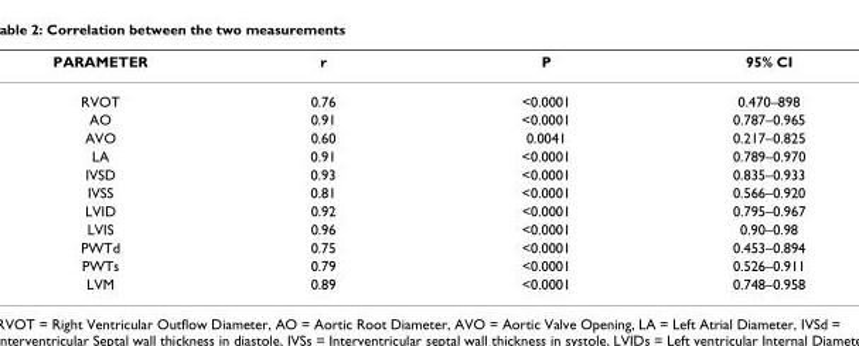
<table><thead><tr><td>PARAMETER</td><td>r</td><td>P</td><td>95% CI</td></tr></thead><tbody><tr><td>RVOT</td><td>0.76</td><td>&lt;0.0001</td><td>0.470–898</td></tr><tr><td>AO</td><td>0.91</td><td>&lt;0.0001</td><td>0.787–0.965</td></tr><tr><td>AVO</td><td>0.60</td><td>0.0041</td><td>0.217–0.825</td></tr><tr><td>LA</td><td>0.91</td><td>&lt;0.0001</td><td>0.789–0.970</td></tr><tr><td>IVSD</td><td>0.93</td><td>&lt;0.0001</td><td>0.835–0.933</td></tr><tr><td>IVSS</td><td>0.81</td><td>&lt;0.0001</td><td>0.566–0.920</td></tr><tr><td>LVID</td><td>0.92</td><td>&lt;0.0001</td><td>0.795–0.967</td></tr><tr><td>LVIS</td><td>0.96</td><td>&lt;0.0001</td><td>0.90–0.98</td></tr><tr><td>PWTd</td><td>0.75</td><td>&lt;0.0001</td><td>0.453–0.894</td></tr><tr><td>PWTs</td><td>0.79</td><td>&lt;0.0001</td><td>0.526–0.911</td></tr><tr><td>LVM</td><td>0.89</td><td>&lt;0.0001</td><td>0.748–0.958</td></tr></tbody></table>